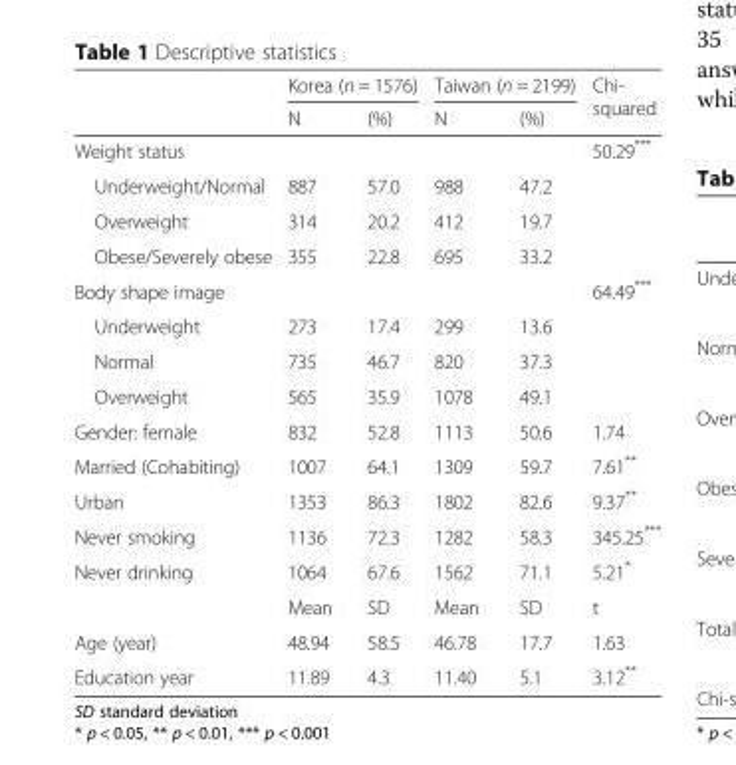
<table><thead><tr><td rowspan="2"></td><td colspan="2">Korea (n = 1576)</td><td colspan="2">Taiwan (n = 2199)</td><td rowspan="2">Chi- squared</td></tr><tr><td>N</td><td>(%)</td><td>N</td><td>(%)</td></tr></thead><tbody><tr><td colspan="5">Weight status</td><td rowspan="4">50.29***</td></tr><tr><td>Underweight/Normal</td><td>887</td><td>57.0</td><td>988</td><td>47.2</td></tr><tr><td>Overweight</td><td>314</td><td>20.2</td><td>412</td><td>19.7</td></tr><tr><td>Obese/Severely obese</td><td>355</td><td>22.8</td><td>695</td><td>33.2</td></tr><tr><td colspan="5">Body shape image</td><td rowspan="4">64.49***</td></tr><tr><td>Underweight</td><td>273</td><td>17.4</td><td>299</td><td>13.6</td></tr><tr><td>Normal</td><td>735</td><td>46.7</td><td>820</td><td>37.3</td></tr><tr><td>Overweight</td><td>565</td><td>35.9</td><td>1078</td><td>49.1</td></tr><tr><td>Gender: female</td><td>832</td><td>52.8</td><td>1113</td><td>50.6</td><td>1.74</td></tr><tr><td>Married (Cohabiting)</td><td>1007</td><td>64.1</td><td>1309</td><td>59.7</td><td>7.61**</td></tr><tr><td>Urban</td><td>1353</td><td>86.3</td><td>1802</td><td>82.6</td><td>9.37**</td></tr><tr><td>Never smoking</td><td>1136</td><td>72.3</td><td>1282</td><td>58.3</td><td>345.25***</td></tr><tr><td rowspan="2">Never drinking</td><td>1064</td><td>67.6</td><td>1562</td><td>71.1</td><td>5.21*</td></tr><tr><td>Mean</td><td>SD</td><td>Mean</td><td>SD</td><td>t</td></tr><tr><td>Age (year)</td><td>48.94</td><td>58.5</td><td>46.78</td><td>17.7</td><td>1.63</td></tr><tr><td>Education year</td><td>11.89</td><td>4.3</td><td>11.40</td><td>5.1</td><td>3.12**</td></tr></tbody></table>